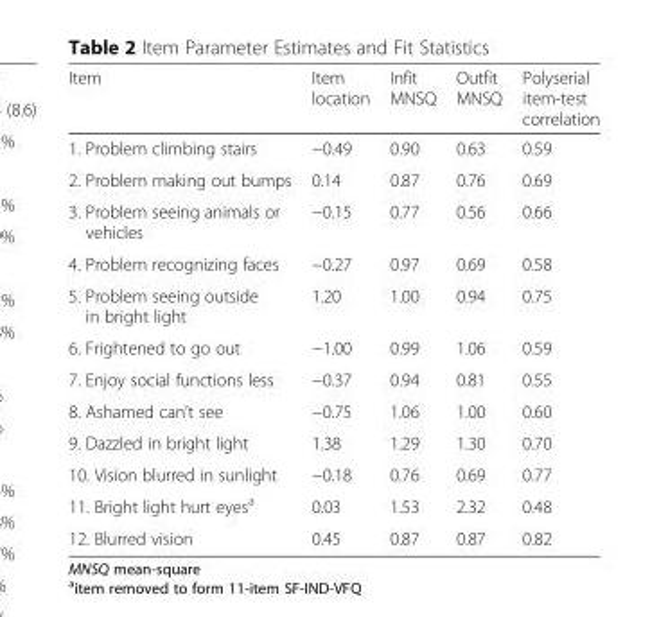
<table><thead><tr><td>Item</td><td>Item location</td><td>Infit MNSQ</td><td>Outfit MNSQ</td><td>Polyserial item-test correlation</td></tr></thead><tbody><tr><td>1. Problem climbing stairs</td><td>−0.49</td><td>0.90</td><td>0.63</td><td>0.59</td></tr><tr><td>2. Problem making out bumps</td><td>0.14</td><td>0.87</td><td>0.76</td><td>0.69</td></tr><tr><td>3. Problem seeing animals or vehicles</td><td>−0.15</td><td>0.77</td><td>0.56</td><td>0.66</td></tr><tr><td>4. Problem recognizing faces</td><td>−0.27</td><td>0.97</td><td>0.69</td><td>0.58</td></tr><tr><td>5. Problem seeing outside in bright light</td><td>1.20</td><td>1.00</td><td>0.94</td><td>0.75</td></tr><tr><td>6. Frightened to go out</td><td>−1.00</td><td>0.99</td><td>1.06</td><td>0.59</td></tr><tr><td>7. Enjoy social functions less</td><td>−0.37</td><td>0.94</td><td>0.81</td><td>0.55</td></tr><tr><td>8. Ashamed can’t see</td><td>−0.75</td><td>1.06</td><td>1.00</td><td>0.60</td></tr><tr><td>9. Dazzled in bright light</td><td>1.38</td><td>1.29</td><td>1.30</td><td>0.70</td></tr><tr><td>10. Vision blurred in sunlight</td><td>−0.18</td><td>0.76</td><td>0.69</td><td>0.77</td></tr><tr><td>11. Bright light hurt eyes<sup>a</sup></td><td>0.03</td><td>1.53</td><td>2.32</td><td>0.48</td></tr><tr><td>12. Blurred vision</td><td>0.45</td><td>0.87</td><td>0.87</td><td>0.82</td></tr></tbody></table>